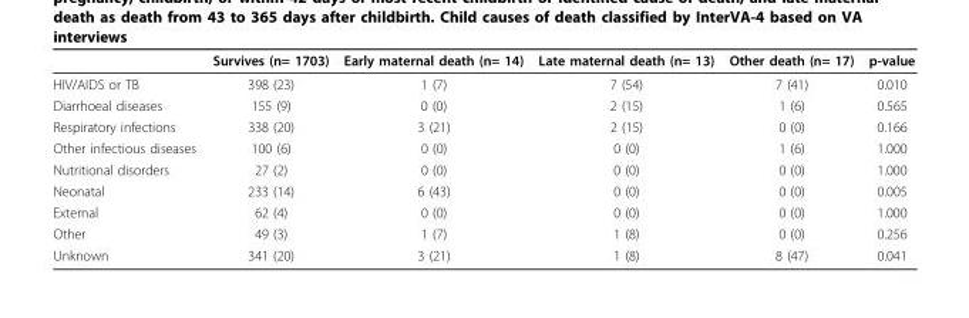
<table><thead><tr><td></td><td>Survives (n= 1703)</td><td>Early maternal death (n= 14)</td><td>Late maternal death (n= 13)</td><td>Other death (n= 17)</td><td>p-value</td></tr></thead><tbody><tr><td>HIV/AIDS or TB</td><td>398 (23)</td><td>1 (7)</td><td>7 (54)</td><td>7 (41)</td><td>0.010</td></tr><tr><td>Diarrhoeal diseases</td><td>155 (9)</td><td>0 (0)</td><td>2 (15)</td><td>1 (6)</td><td>0.565</td></tr><tr><td>Respiratory infections</td><td>338 (20)</td><td>3 (21)</td><td>2 (15)</td><td>0 (0)</td><td>0.166</td></tr><tr><td>Other infectious diseases</td><td>100 (6)</td><td>0 (0)</td><td>0 (0)</td><td>1 (6)</td><td>1.000</td></tr><tr><td>Nutritional disorders</td><td>27 (2)</td><td>0 (0)</td><td>0 (0)</td><td>0 (0)</td><td>1.000</td></tr><tr><td>Neonatal</td><td>233 (14)</td><td>6 (43)</td><td>0 (0)</td><td>0 (0)</td><td>0.005</td></tr><tr><td>External</td><td>62 (4)</td><td>0 (0)</td><td>0 (0)</td><td>0 (0)</td><td>1.000</td></tr><tr><td>Other</td><td>49 (3)</td><td>1 (7)</td><td>1 (8)</td><td>0 (0)</td><td>0.256</td></tr><tr><td>Unknown</td><td>341 (20)</td><td>3 (21)</td><td>1 (8)</td><td>8 (47)</td><td>0.041</td></tr></tbody></table>